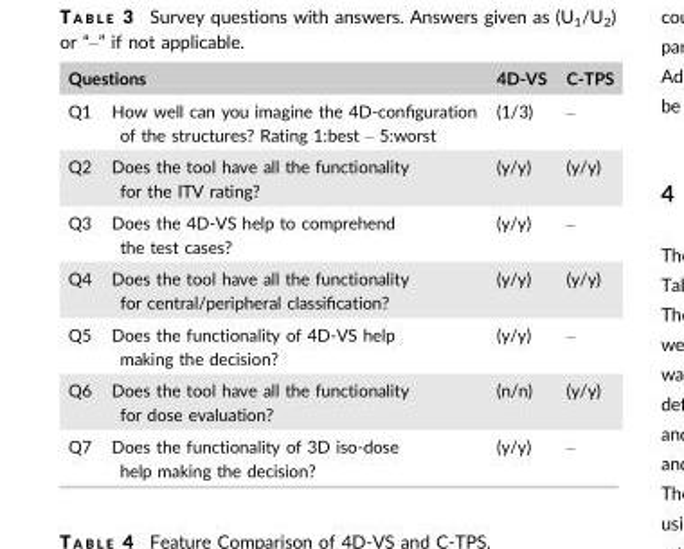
<table><thead><tr><td colspan="2">Questions</td><td rowspan="2">4D-VS (1/3)</td><td rowspan="2">C-TPS –</td></tr><tr><td>Q1</td><td>How well can you imagine the 4D-configuration of the structures? Rating 1:best – 5:worst</td></tr></thead><tbody><tr><td>Q2</td><td>Does the tool have all the functionality for the ITV rating?</td><td>(y/y)</td><td>(y/y)</td></tr><tr><td>Q3</td><td>Does the 4D-VS help to comprehend the test cases?</td><td>(y/y)</td><td>–</td></tr><tr><td>Q4</td><td>Does the tool have all the functionality for central/peripheral classification?</td><td>(y/y)</td><td>(y/y)</td></tr><tr><td>Q5</td><td>Does the functionality of 4D-VS help making the decision?</td><td>(y/y)</td><td>–</td></tr><tr><td>Q6</td><td>Does the tool have all the functionality for dose evaluation?</td><td>(n/n)</td><td>(y/y)</td></tr><tr><td>Q7</td><td>Does the functionality of 3D iso-dose help making the decision?</td><td>(y/y)</td><td>–</td></tr></tbody></table>